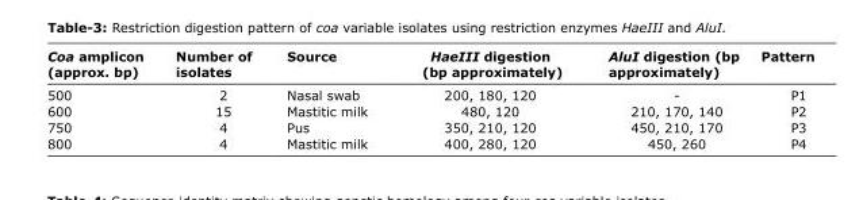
<table><thead><tr><td>Coa amplicon (approx. bp)</td><td>Number of isolates</td><td>Source</td><td>HaeIII digestion (bp approximately)</td><td>AluI digestion (bp approximately)</td><td>Pattern</td></tr></thead><tbody><tr><td>500</td><td>2</td><td>Nasal swab</td><td>200, 180, 120</td><td>-</td><td>P1</td></tr><tr><td>600</td><td>15</td><td>Mastitic milk</td><td>480, 120</td><td>210, 170, 140</td><td>P2</td></tr><tr><td>750</td><td>4</td><td>Pus</td><td>350, 210, 120</td><td>450, 210, 170</td><td>P3</td></tr><tr><td>800</td><td>4</td><td>Mastitic milk</td><td>400, 280, 120</td><td>450, 260</td><td>P4</td></tr></tbody></table>